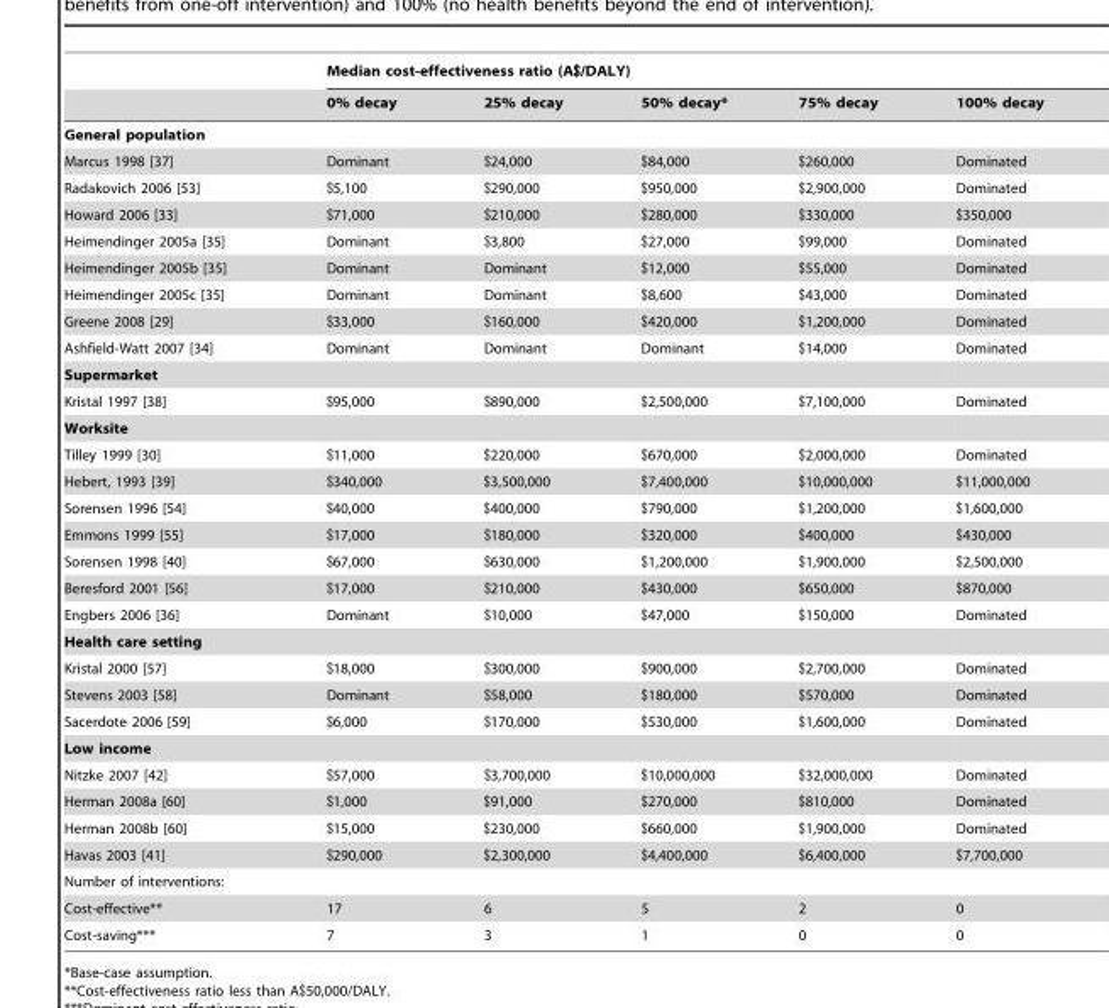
<table><thead><tr><td rowspan="2"></td><td colspan="5">Median cost-effectiveness ratio (A$/DALY)</td></tr><tr><td>0% decay</td><td>25% decay</td><td>50% decay*</td><td>75% decay</td><td>100% decay</td></tr></thead><tbody><tr><td colspan="6">General population</td></tr><tr><td>Marcus 1998 [37]</td><td>Dominant</td><td>$24,000</td><td>$84,000</td><td>$260,000</td><td>Dominated</td></tr><tr><td>Radakovich 2006 [53]</td><td>$5,100</td><td>$290,000</td><td>$950,000</td><td>$2,900,000</td><td>Dominated</td></tr><tr><td>Howard 2006 [33]</td><td>$71,000</td><td>$210,000</td><td>$280,000</td><td>$330,000</td><td>$350,000</td></tr><tr><td>Heimendinger 2005a [35]</td><td>Dominant</td><td>$3,800</td><td>$27,000</td><td>$99,000</td><td>Dominated</td></tr><tr><td>Heimendinger 2005b [35]</td><td>Dominant</td><td>Dominant</td><td>$12,000</td><td>$55,000</td><td>Dominated</td></tr><tr><td>Heimendinger 2005c [35]</td><td>Dominant</td><td>Dominant</td><td>$8,600</td><td>$43,000</td><td>Dominated</td></tr><tr><td>Greene 2008 [29]</td><td>$33,000</td><td>$160,000</td><td>$420,000</td><td>$1,200,000</td><td>Dominated</td></tr><tr><td>Ashfield-Watt 2007 [34]</td><td>Dominant</td><td>Dominant</td><td>Dominant</td><td>$14,000</td><td>Dominated</td></tr><tr><td colspan="6">Supermarket</td></tr><tr><td>Kristal 1997 [38]</td><td>$95,000</td><td>$890,000</td><td>$2,500,000</td><td>$7,100,000</td><td>Dominated</td></tr><tr><td colspan="6">Worksite</td></tr><tr><td>Tilley 1999 [30]</td><td>$11,000</td><td>$220,000</td><td>$670,000</td><td>$2,000,000</td><td>Dominated</td></tr><tr><td>Hebert, 1993 [39]</td><td>$340,000</td><td>$3,500,000</td><td>$7,400,000</td><td>$10,000,000</td><td>$11,000,000</td></tr><tr><td>Sorensen 1996 [54]</td><td>$40,000</td><td>$400,000</td><td>$790,000</td><td>$1,200,000</td><td>$1,600,000</td></tr><tr><td>Emmons 1999 [55]</td><td>$17,000</td><td>$180,000</td><td>$320,000</td><td>$400,000</td><td>$430,000</td></tr><tr><td>Sorensen 1998 [40]</td><td>$67,000</td><td>$630,000</td><td>$1,200,000</td><td>$1,900,000</td><td>$2,500,000</td></tr><tr><td>Beresford 2001 [56]</td><td>$17,000</td><td>$210,000</td><td>$430,000</td><td>$650,000</td><td>$870,000</td></tr><tr><td>Engbers 2006 [36]</td><td>Dominant</td><td>$10,000</td><td>$47,000</td><td>$150,000</td><td>Dominated</td></tr><tr><td colspan="6">Health care setting</td></tr><tr><td>Kristal 2000 [57]</td><td>$18,000</td><td>$300,000</td><td>$900,000</td><td>$2,700,000</td><td>Dominated</td></tr><tr><td>Stevens 2003 [58]</td><td>Dominant</td><td>$58,000</td><td>$180,000</td><td>$570,000</td><td>Dominated</td></tr><tr><td>Sacerdote 2006 [59]</td><td>$6,000</td><td>$170,000</td><td>$530,000</td><td>$1,600,000</td><td>Dominated</td></tr><tr><td colspan="6">Low income</td></tr><tr><td>Nitzke 2007 [42]</td><td>$57,000</td><td>$3,700,000</td><td>$10,000,000</td><td>$32,000,000</td><td>Dominated</td></tr><tr><td>Herman 2008a [60]</td><td>$1,000</td><td>$91,000</td><td>$270,000</td><td>$810,000</td><td>Dominated</td></tr><tr><td>Herman 2008b [60]</td><td>$15,000</td><td>$230,000</td><td>$660,000</td><td>$1,900,000</td><td>Dominated</td></tr><tr><td>Havas 2003 [41]</td><td>$290,000</td><td>$2,300,000</td><td>$4,400,000</td><td>$6,400,000</td><td>$7,700,000</td></tr><tr><td colspan="6">Number of interventions:</td></tr><tr><td>Cost-effective**</td><td>17</td><td>6</td><td>5</td><td>2</td><td>0</td></tr><tr><td>Cost-saving***</td><td>7</td><td>3</td><td>1</td><td>0</td><td>0</td></tr></tbody></table>